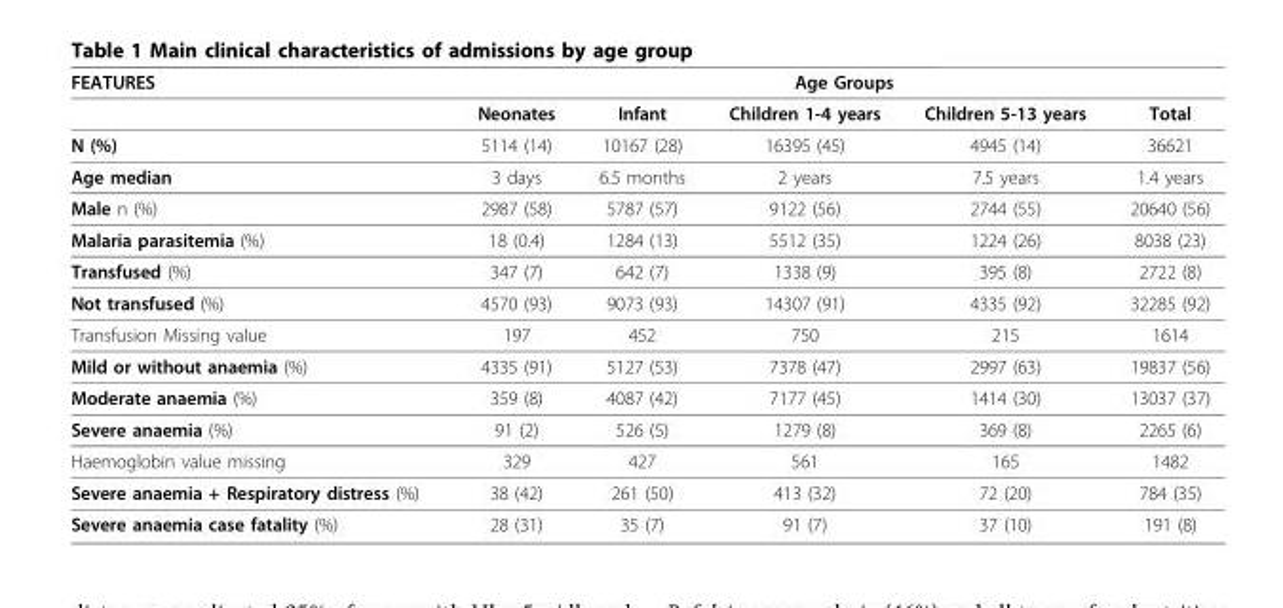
<table><thead><tr><td rowspan="2">FEATURES</td><td colspan="5">Age Groups</td></tr><tr><td>Neonates</td><td>Infant</td><td>Children 1-4 years</td><td>Children 5-13 years</td><td>Total</td></tr></thead><tbody><tr><td>N (%)</td><td>5114 (14)</td><td>10167 (28)</td><td>16395 (45)</td><td>4945 (14)</td><td>36621</td></tr><tr><td>Age median</td><td>3 days</td><td>6.5 months</td><td>2 years</td><td>7.5 years</td><td>1.4 years</td></tr><tr><td>Male n (%)</td><td>2987 (58)</td><td>5787 (57)</td><td>9122 (56)</td><td>2744 (55)</td><td>20640 (56)</td></tr><tr><td>Malaria parasitemia (%)</td><td>18 (0.4)</td><td>1284 (13)</td><td>5512 (35)</td><td>1224 (26)</td><td>8038 (23)</td></tr><tr><td>Transfused (%)</td><td>347 (7)</td><td>642 (7)</td><td>1338 (9)</td><td>395 (8)</td><td>2722 (8)</td></tr><tr><td>Not transfused (%)</td><td>4570 (93)</td><td>9073 (93)</td><td>14307 (91)</td><td>4335 (92)</td><td>32285 (92)</td></tr><tr><td>Transfusion Missing value</td><td>197</td><td>452</td><td>750</td><td>215</td><td>1614</td></tr><tr><td>Mild or without anaemia (%)</td><td>4335 (91)</td><td>5127 (53)</td><td>7378 (47)</td><td>2997 (63)</td><td>19837 (56)</td></tr><tr><td>Moderate anaemia (%)</td><td>359 (8)</td><td>4087 (42)</td><td>7177 (45)</td><td>1414 (30)</td><td>13037 (37)</td></tr><tr><td>Severe anaemia (%)</td><td>91 (2)</td><td>526 (5)</td><td>1279 (8)</td><td>369 (8)</td><td>2265 (6)</td></tr><tr><td>Haemoglobin value missing</td><td>329</td><td>427</td><td>561</td><td>165</td><td>1482</td></tr><tr><td>Severe anaemia + Respiratory distress (%)</td><td>38 (42)</td><td>261 (50)</td><td>413 (32)</td><td>72 (20)</td><td>784 (35)</td></tr><tr><td>Severe anaemia case fatality (%)</td><td>28 (31)</td><td>35 (7)</td><td>91 (7)</td><td>37 (10)</td><td>191 (8)</td></tr></tbody></table>